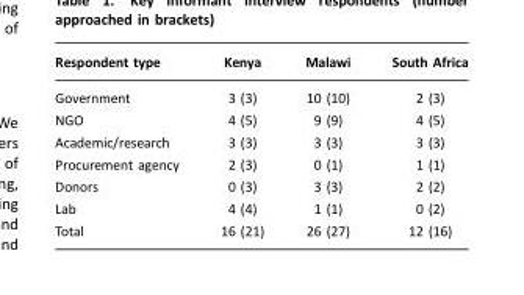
<table><thead><tr><td>Respondent type</td><td>Kenya</td><td>Malawi</td><td>South Africa</td></tr></thead><tbody><tr><td>Government</td><td>3 (3)</td><td>10 (10)</td><td>2 (3)</td></tr><tr><td>NGO</td><td>4 (5)</td><td>9 (9)</td><td>4 (5)</td></tr><tr><td>Academic/research</td><td>3 (3)</td><td>3 (3)</td><td>3 (3)</td></tr><tr><td>Procurement agency</td><td>2 (3)</td><td>0 (1)</td><td>1 (1)</td></tr><tr><td>Donors</td><td>0 (3)</td><td>3 (3)</td><td>2 (2)</td></tr><tr><td>Lab</td><td>4 (4)</td><td>1 (1)</td><td>0 (2)</td></tr><tr><td>Total</td><td>16 (21)</td><td>26 (27)</td><td>12 (16)</td></tr></tbody></table>